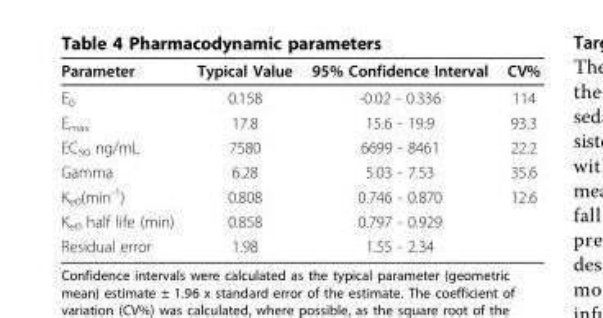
<table><thead><tr><td>Parameter</td><td>Typical Value</td><td>95% Confidence Interval</td><td>CV%</td></tr></thead><tbody><tr><td>E<sub>0</sub></td><td>0.158</td><td>-0.02 - 0.336</td><td>114</td></tr><tr><td>E<sub>max</sub></td><td>17.8</td><td>15.6 - 19.9</td><td>93.3</td></tr><tr><td>EC<sub>50</sub> ng/mL</td><td>7580</td><td>6699 - 8461</td><td>22.2</td></tr><tr><td>Gamma</td><td>6.28</td><td>5.03 - 7.53</td><td>35.6</td></tr><tr><td>K<sub>e0</sub>(min<sup>-1</sup>)</td><td>0.808</td><td>0.746 - 0.870</td><td>12.6</td></tr><tr><td>K<sub>e0</sub> half life (min)</td><td>0.858</td><td>0.797 - 0.929</td><td></td></tr><tr><td>Residual error</td><td>1.98</td><td>1.55 - 2.34</td><td></td></tr></tbody></table>